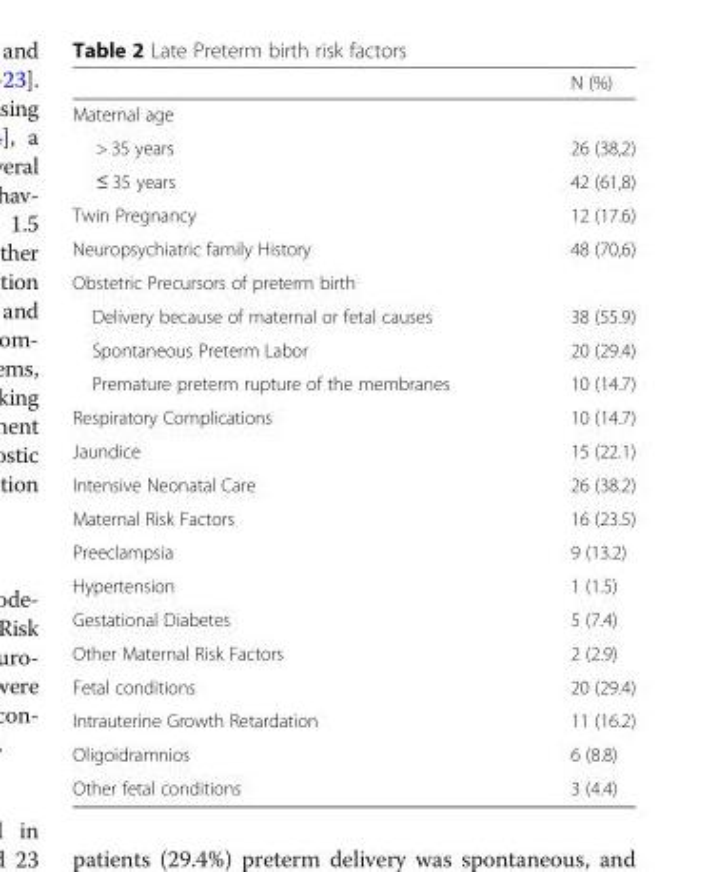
<table><thead><tr><td></td><td>N (%)</td></tr></thead><tbody><tr><td colspan="2">Maternal age</td></tr><tr><td>&gt; 35 years</td><td>26 (38,2)</td></tr><tr><td>≤ 35 years</td><td>42 (61,8)</td></tr><tr><td>Twin Pregnancy</td><td>12 (17.6)</td></tr><tr><td>Neuropsychiatric family History</td><td>48 (70,6)</td></tr><tr><td colspan="2">Obstetric Precursors of preterm birth</td></tr><tr><td>Delivery because of maternal or fetal causes</td><td>38 (55.9)</td></tr><tr><td>Spontaneous Preterm Labor</td><td>20 (29.4)</td></tr><tr><td>Premature preterm rupture of the membranes</td><td>10 (14.7)</td></tr><tr><td>Respiratory Complications</td><td>10 (14.7)</td></tr><tr><td>Jaundice</td><td>15 (22.1)</td></tr><tr><td>Intensive Neonatal Care</td><td>26 (38.2)</td></tr><tr><td>Maternal Risk Factors</td><td>16 (23.5)</td></tr><tr><td>Preeclampsia</td><td>9 (13.2)</td></tr><tr><td>Hypertension</td><td>1 (1.5)</td></tr><tr><td>Gestational Diabetes</td><td>5 (7.4)</td></tr><tr><td>Other Maternal Risk Factors</td><td>2 (2.9)</td></tr><tr><td>Fetal conditions</td><td>20 (29.4)</td></tr><tr><td>Intrauterine Growth Retardation</td><td>11 (16.2)</td></tr><tr><td>Oligoidramnios</td><td>6 (8.8)</td></tr><tr><td>Other fetal conditions</td><td>3 (4.4)</td></tr></tbody></table>